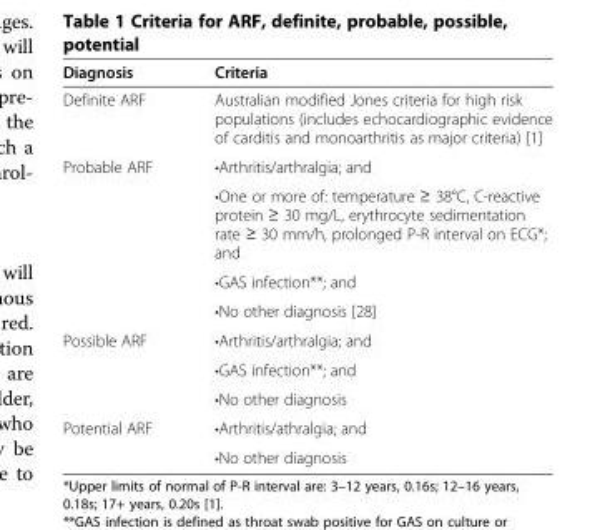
<table><thead><tr><td>Diagnosis</td><td>Criteria</td></tr></thead><tbody><tr><td>Definite ARF</td><td>Australian modified Jones criteria for high risk populations (includes echocardiographic evidence of carditis and monoarthritis as major criteria) [1]</td></tr><tr><td rowspan="4">Probable ARF</td><td>•Arthritis/arthralgia; and</td></tr><tr><td>•One or more of: temperature ≥ 38°C, C-reactive protein ≥ 30 mg/L, erythrocyte sedimentation rate ≥ 30 mm/h, prolonged P-R interval on ECG*; and</td></tr><tr><td>•GAS infection**; and</td></tr><tr><td>•No other diagnosis [28]</td></tr><tr><td rowspan="3">Possible ARF</td><td>•Arthritis/arthralgia; and</td></tr><tr><td>•GAS infection**; and</td></tr><tr><td>•No other diagnosis</td></tr><tr><td rowspan="2">Potential ARF</td><td>•Arthritis/athralgia; and</td></tr><tr><td>•No other diagnosis</td></tr></tbody></table>